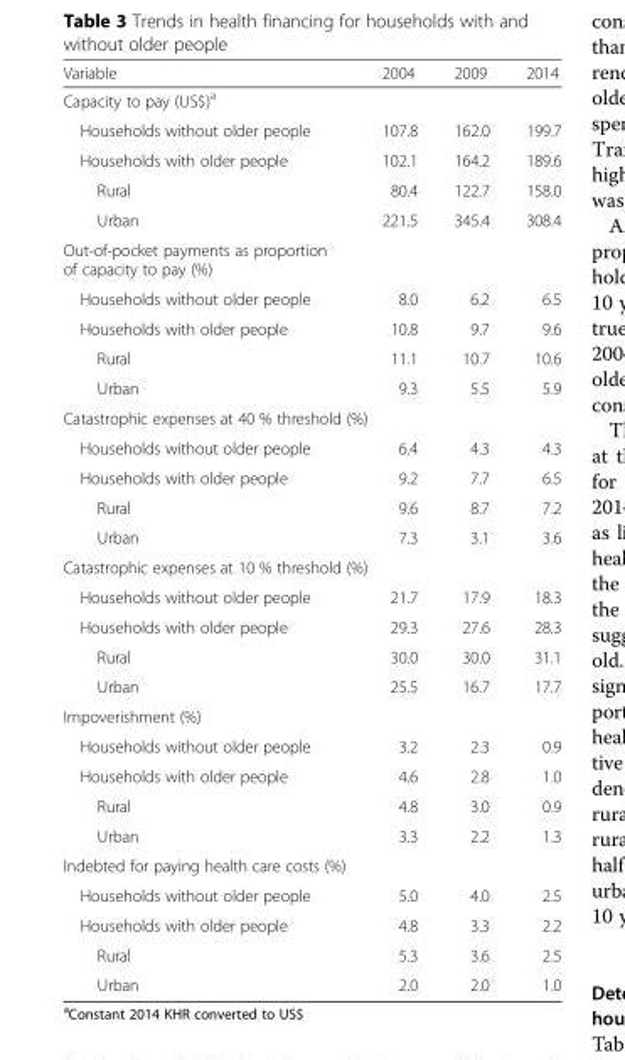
<table><thead><tr><td>Variable</td><td>2004</td><td>2009</td><td>2014</td></tr></thead><tbody><tr><td colspan="4">Capacity to pay (US$)<sup>a</sup></td></tr><tr><td>Households without older people</td><td>107.8</td><td>162.0</td><td>199.7</td></tr><tr><td>Households with older people</td><td>102.1</td><td>164.2</td><td>189.6</td></tr><tr><td>Rural</td><td>80.4</td><td>122.7</td><td>158.0</td></tr><tr><td>Urban</td><td>221.5</td><td>345.4</td><td>308.4</td></tr><tr><td colspan="4">Out-of-pocket payments as proportion of capacity to pay (%)</td></tr><tr><td>Households without older people</td><td>8.0</td><td>6.2</td><td>6.5</td></tr><tr><td>Households with older people</td><td>10.8</td><td>9.7</td><td>9.6</td></tr><tr><td>Rural</td><td>11.1</td><td>10.7</td><td>10.6</td></tr><tr><td>Urban</td><td>9.3</td><td>5.5</td><td>5.9</td></tr><tr><td colspan="4">Catastrophic expenses at 40 % threshold (%)</td></tr><tr><td>Households without older people</td><td>6.4</td><td>4.3</td><td>4.3</td></tr><tr><td>Households with older people</td><td>9.2</td><td>7.7</td><td>6.5</td></tr><tr><td>Rural</td><td>9.6</td><td>8.7</td><td>7.2</td></tr><tr><td>Urban</td><td>7.3</td><td>3.1</td><td>3.6</td></tr><tr><td colspan="4">Catastrophic expenses at 10 % threshold (%)</td></tr><tr><td>Households without older people</td><td>21.7</td><td>17.9</td><td>18.3</td></tr><tr><td>Households with older people</td><td>29.3</td><td>27.6</td><td>28.3</td></tr><tr><td>Rural</td><td>30.0</td><td>30.0</td><td>31.1</td></tr><tr><td>Urban</td><td>25.5</td><td>16.7</td><td>17.7</td></tr><tr><td colspan="4">Impoverishment (%)</td></tr><tr><td>Households without older people</td><td>3.2</td><td>2.3</td><td>0.9</td></tr><tr><td>Households with older people</td><td>4.6</td><td>2.8</td><td>1.0</td></tr><tr><td>Rural</td><td>4.8</td><td>3.0</td><td>0.9</td></tr><tr><td>Urban</td><td>3.3</td><td>2.2</td><td>1.3</td></tr><tr><td colspan="4">Indebted for paying health care costs (%)</td></tr><tr><td>Households without older people</td><td>5.0</td><td>4.0</td><td>2.5</td></tr><tr><td>Households with older people</td><td>4.8</td><td>3.3</td><td>2.2</td></tr><tr><td>Rural</td><td>5.3</td><td>3.6</td><td>2.5</td></tr><tr><td>Urban</td><td>2.0</td><td>2.0</td><td>1.0</td></tr></tbody></table>